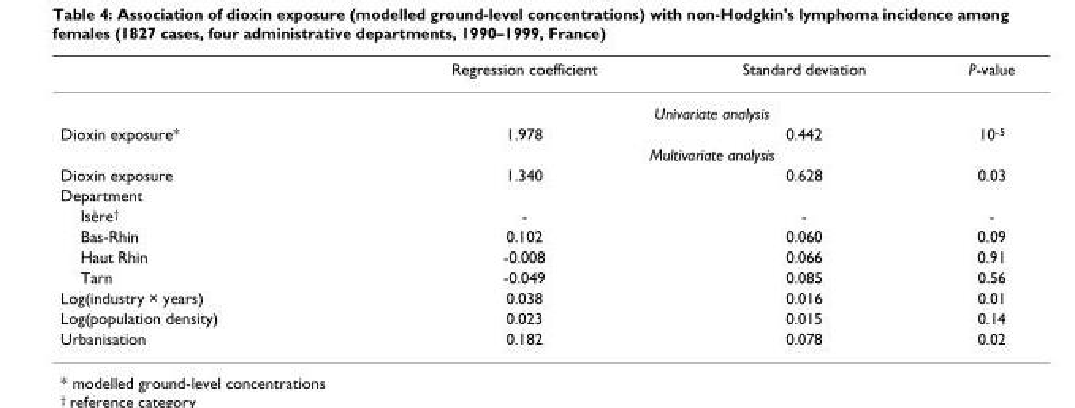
<table><thead><tr><td></td><td>Regression coefficient</td><td>Standard deviation</td><td>P-value</td></tr></thead><tbody><tr><td></td><td colspan="3">Univariate analysis</td></tr><tr><td rowspan="2">Dioxin exposure*</td><td>1.978</td><td>0.442</td><td>10<sup>-5</sup></td></tr><tr><td colspan="3">Multivariate analysis</td></tr><tr><td>Dioxin exposure</td><td>1.340</td><td>0.628</td><td>0.03</td></tr><tr><td colspan="4">Department</td></tr><tr><td>Isère<sup>†</sup></td><td>-</td><td>-</td><td>-</td></tr><tr><td>Bas-Rhin</td><td>0.102</td><td>0.060</td><td>0.09</td></tr><tr><td>Haut Rhin</td><td>-0.008</td><td>0.066</td><td>0.91</td></tr><tr><td>Tarn</td><td>-0.049</td><td>0.085</td><td>0.56</td></tr><tr><td>Log(industry × years)</td><td>0.038</td><td>0.016</td><td>0.01</td></tr><tr><td>Log(population density)</td><td>0.023</td><td>0.015</td><td>0.14</td></tr><tr><td>Urbanisation</td><td>0.182</td><td>0.078</td><td>0.02</td></tr></tbody></table>